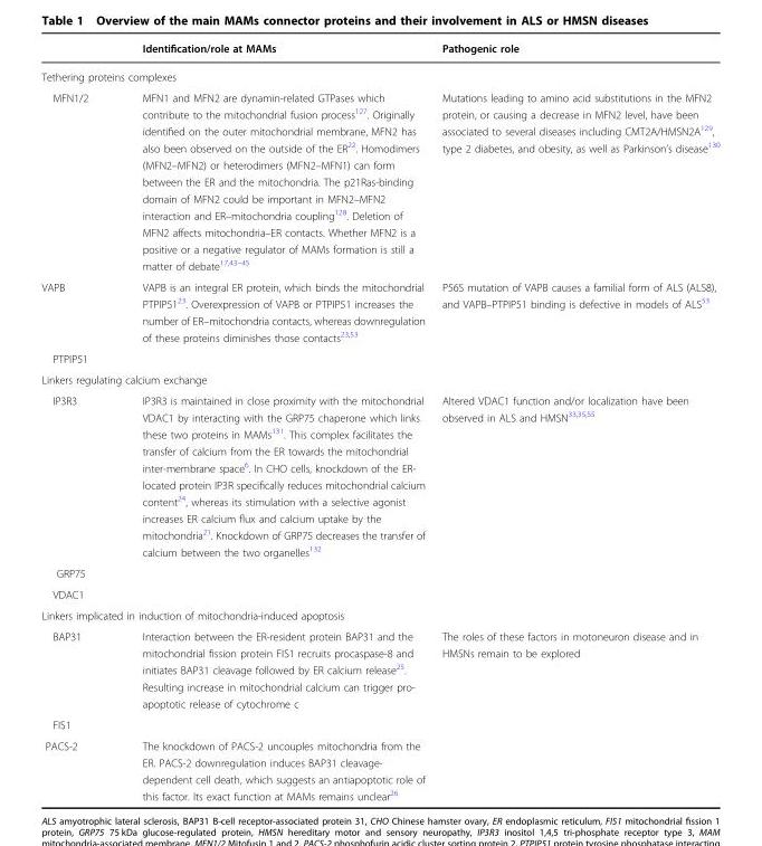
<table><thead><tr><td></td><td>Identification/role at MAMs</td><td>Pathogenic role</td></tr></thead><tbody><tr><td colspan="3">Tethering proteins complexes</td></tr><tr><td>MFN1/2</td><td>MFN1 and MFN2 are dynamin-related GTPases which contribute to the mitochondrial fusion process<sup>127</sup>. Originally identified on the outer mitochondrial membrane, MFN2 has also been observed on the outside of the ER<sup>22</sup>. Homodimers (MFN2–MFN2) or heterodimers (MFN2–MFN1) can form between the ER and the mitochondria. The p21Ras-binding domain of MFN2 could be important in MFN2–MFN2 interaction and ER–mitochondria coupling<sup>128</sup>. Deletion of MFN2 affects mitochondria–ER contacts. Whether MFN2 is a positive or a negative regulator of MAMs formation is still a matter of debate<sup>17,43–45</sup></td><td>Mutations leading to amino acid substitutions in the MFN2 protein, or causing a decrease in MFN2 level, have been associated to several diseases including CMT2A/HMSN2A<sup>129</sup>, type 2 diabetes, and obesity, as well as Parkinson’s disease<sup>130</sup></td></tr><tr><td>VAPB</td><td>VAPB is an integral ER protein, which binds the mitochondrial PTPIP51<sup>23</sup>. Overexpression of VAPB or PTPIP51 increases the number of ER–mitochondria contacts, whereas downregulation of these proteins diminishes those contacts<sup>23,53</sup></td><td>P56S mutation of VAPB causes a familial form of ALS (ALS8), and VAPB–PTPIP51 binding is defective in models of ALS<sup>53</sup></td></tr><tr><td colspan="3">PTPIP51</td></tr><tr><td colspan="3">Linkers regulating calcium exchange</td></tr><tr><td>IP3R3</td><td>IP3R3 is maintained in close proximity with the mitochondrial VDAC1 by interacting with the GRP75 chaperone which links these two proteins in MAMs<sup>131</sup>. This complex facilitates the transfer of calcium from the ER towards the mitochondrial inter-membrane space<sup>6</sup>. In CHO cells, knockdown of the ER- located protein IP3R specifically reduces mitochondrial calcium content<sup>24</sup>, whereas its stimulation with a selective agonist increases ER calcium flux and calcium uptake by the mitochondria<sup>21</sup>. Knockdown of GRP75 decreases the transfer of calcium between the two organelles<sup>132</sup></td><td>Altered VDAC1 function and/or localization have been observed in ALS and HMSN<sup>33,35,55</sup></td></tr><tr><td colspan="3">GRP75</td></tr><tr><td colspan="3">VDAC1</td></tr><tr><td colspan="3">Linkers implicated in induction of mitochondria-induced apoptosis</td></tr><tr><td>BAP31</td><td>Interaction between the ER-resident protein BAP31 and the mitochondrial fission protein FIS1 recruits procaspase-8 and initiates BAP31 cleavage followed by ER calcium release<sup>25</sup>. Resulting increase in mitochondrial calcium can trigger pro- apoptotic release of cytochrome c</td><td>The roles of these factors in motoneuron disease and in HMSNs remain to be explored</td></tr><tr><td colspan="3">FIS1</td></tr><tr><td>PACS-2</td><td>The knockdown of PACS-2 uncouples mitochondria from the ER. PACS-2 downregulation induces BAP31 cleavage- dependent cell death, which suggests an antiapoptotic role of this factor. Its exact function at MAMs remains unclear<sup>26</sup></td><td></td></tr></tbody></table>